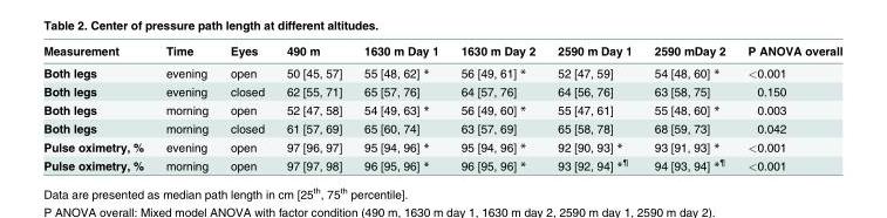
<table><thead><tr><td>Measurement</td><td>Time</td><td>Eyes</td><td>490 m</td><td>1630 m Day 1</td><td>1630 m Day 2</td><td>2590 m Day 1</td><td>2590 mDay 2</td><td>P ANOVA overall</td></tr></thead><tbody><tr><td>Both legs</td><td>evening</td><td>open</td><td>50 [45, 57]</td><td>55 [48, 62] *</td><td>56 [49, 61] *</td><td>52 [47, 59]</td><td>54 [48, 60] *</td><td>&lt;0.001</td></tr><tr><td>Both legs</td><td>evening</td><td>closed</td><td>62 [55, 71]</td><td>65 [57, 76]</td><td>64 [57, 76]</td><td>64 [56, 76]</td><td>63 [58, 75]</td><td>0.150</td></tr><tr><td>Both legs</td><td>morning</td><td>open</td><td>52 [47, 58]</td><td>54 [49, 63] *</td><td>56 [49, 60] *</td><td>55 [47, 61]</td><td>55 [48, 60] *</td><td>0.003</td></tr><tr><td>Both legs</td><td>morning</td><td>closed</td><td>61 [57, 69]</td><td>65 [60, 74]</td><td>63 [57, 69]</td><td>65 [58, 78]</td><td>68 [59, 73]</td><td>0.042</td></tr><tr><td>Pulse oximetry, %</td><td>evening</td><td>open</td><td>97 [96, 97]</td><td>95 [94, 96] *</td><td>95 [94, 96] *</td><td>92 [90, 93] *</td><td>93 [91, 93] *</td><td>&lt;0.001</td></tr><tr><td>Pulse oximetry, %</td><td>morning</td><td>open</td><td>97 [97, 98]</td><td>96 [95, 96] *</td><td>96 [95, 96] *</td><td>93 [92, 94] *<sup>¶</sup></td><td>94 [93, 94] *<sup>¶</sup></td><td>&lt;0.001</td></tr></tbody></table>